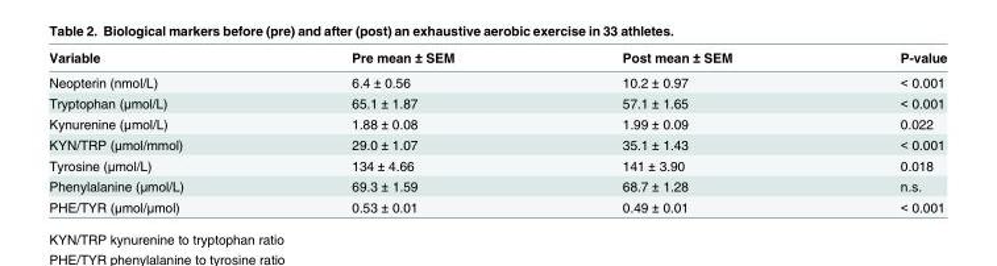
<table><thead><tr><td>Variable</td><td>Pre mean ± SEM</td><td>Post mean ± SEM</td><td>P-value</td></tr></thead><tbody><tr><td>Neopterin (nmol/L)</td><td>6.4 ± 0.56</td><td>10.2 ± 0.97</td><td>&lt; 0.001</td></tr><tr><td>Tryptophan (μmol/L)</td><td>65.1 ± 1.87</td><td>57.1 ± 1.65</td><td>&lt; 0.001</td></tr><tr><td>Kynurenine (μmol/L)</td><td>1.88 ± 0.08</td><td>1.99 ± 0.09</td><td>0.022</td></tr><tr><td>KYN/TRP (μmol/mmol)</td><td>29.0 ± 1.07</td><td>35.1 ± 1.43</td><td>&lt; 0.001</td></tr><tr><td>Tyrosine (μmol/L)</td><td>134 ± 4.66</td><td>141 ± 3.90</td><td>0.018</td></tr><tr><td>Phenylalanine (μmol/L)</td><td>69.3 ± 1.59</td><td>68.7 ± 1.28</td><td>n.s.</td></tr><tr><td>PHE/TYR (μmol/μmol)</td><td>0.53 ± 0.01</td><td>0.49 ± 0.01</td><td>&lt; 0.001</td></tr></tbody></table>